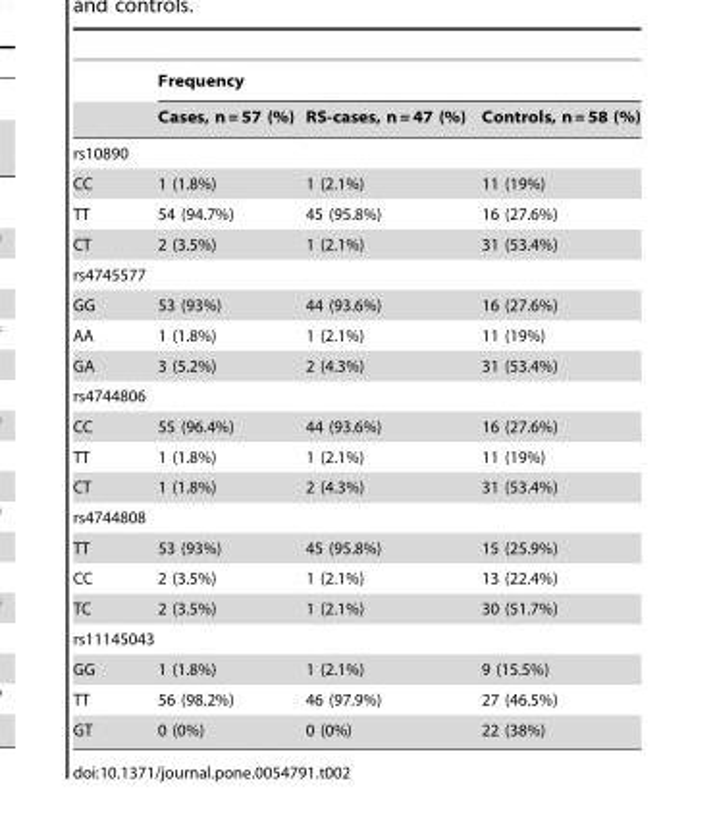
<table><thead><tr><td rowspan="2"></td><td colspan="3">Frequency</td></tr><tr><td>Cases, n = 57 (%)</td><td>RS-cases, n = 47 (%)</td><td>Controls, n = 58 (%)</td></tr></thead><tbody><tr><td colspan="4">rs10890</td></tr><tr><td>CC</td><td>1 (1.8%)</td><td>1 (2.1%)</td><td>11 (19%)</td></tr><tr><td>TT</td><td>54 (94.7%)</td><td>45 (95.8%)</td><td>16 (27.6%)</td></tr><tr><td>CT</td><td>2 (3.5%)</td><td>1 (2.1%)</td><td>31 (53.4%)</td></tr><tr><td colspan="4">rs4745577</td></tr><tr><td>GG</td><td>53 (93%)</td><td>44 (93.6%)</td><td>16 (27.6%)</td></tr><tr><td>AA</td><td>1 (1.8%)</td><td>1 (2.1%)</td><td>11 (19%)</td></tr><tr><td>GA</td><td>3 (5.2%)</td><td>2 (4.3%)</td><td>31 (53.4%)</td></tr><tr><td colspan="4">rs4744806</td></tr><tr><td>CC</td><td>55 (96.4%)</td><td>44 (93.6%)</td><td>16 (27.6%)</td></tr><tr><td>TT</td><td>1 (1.8%)</td><td>1 (2.1%)</td><td>11 (19%)</td></tr><tr><td>CT</td><td>1 (1.8%)</td><td>2 (4.3%)</td><td>31 (53.4%)</td></tr><tr><td colspan="4">rs4744808</td></tr><tr><td>TT</td><td>53 (93%)</td><td>45 (95.8%)</td><td>15 (25.9%)</td></tr><tr><td>CC</td><td>2 (3.5%)</td><td>1 (2.1%)</td><td>13 (22.4%)</td></tr><tr><td>TC</td><td>2 (3.5%)</td><td>1 (2.1%)</td><td>30 (51.7%)</td></tr><tr><td colspan="4">rs11145043</td></tr><tr><td>GG</td><td>1 (1.8%)</td><td>1 (2.1%)</td><td>9 (15.5%)</td></tr><tr><td>TT</td><td>56 (98.2%)</td><td>46 (97.9%)</td><td>27 (46.5%)</td></tr><tr><td>GT</td><td>0 (0%)</td><td>0 (0%)</td><td>22 (38%)</td></tr></tbody></table>